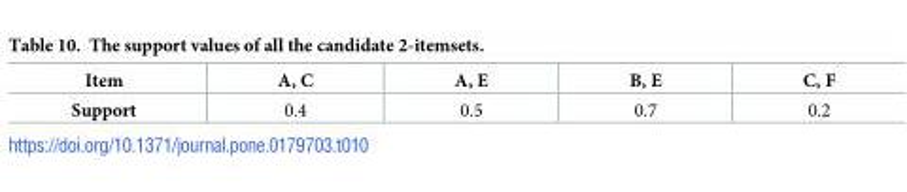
<table><thead><tr><td>Item</td><td>A, C</td><td>A, E</td><td>B, E</td><td>C, F</td></tr></thead><tbody><tr><td>Support</td><td>0.4</td><td>0.5</td><td>0.7</td><td>0.2</td></tr></tbody></table>